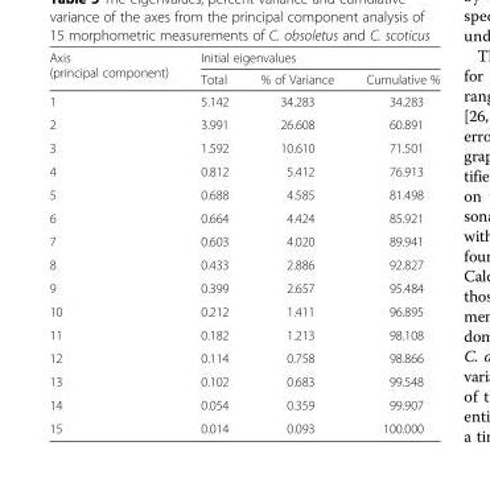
<table><thead><tr><td rowspan="2">Axis (principal component)</td><td colspan="3">Initial eigenvalues</td></tr><tr><td>Total</td><td>% of Variance</td><td>Cumulative %</td></tr></thead><tbody><tr><td>1</td><td>5.142</td><td>34.283</td><td>34.283</td></tr><tr><td>2</td><td>3.991</td><td>26.608</td><td>60.891</td></tr><tr><td>3</td><td>1.592</td><td>10.610</td><td>71.501</td></tr><tr><td>4</td><td>0.812</td><td>5.412</td><td>76.913</td></tr><tr><td>5</td><td>0.688</td><td>4.585</td><td>81.498</td></tr><tr><td>6</td><td>0.664</td><td>4.424</td><td>85.921</td></tr><tr><td>7</td><td>0.603</td><td>4.020</td><td>89.941</td></tr><tr><td>8</td><td>0.433</td><td>2.886</td><td>92.827</td></tr><tr><td>9</td><td>0.399</td><td>2.657</td><td>95.484</td></tr><tr><td>10</td><td>0.212</td><td>1.411</td><td>96.895</td></tr><tr><td>11</td><td>0.182</td><td>1.213</td><td>98.108</td></tr><tr><td>12</td><td>0.114</td><td>0.758</td><td>98.866</td></tr><tr><td>13</td><td>0.102</td><td>0.683</td><td>99.548</td></tr><tr><td>14</td><td>0.054</td><td>0.359</td><td>99.907</td></tr><tr><td>15</td><td>0.014</td><td>0.093</td><td>100.000</td></tr></tbody></table>